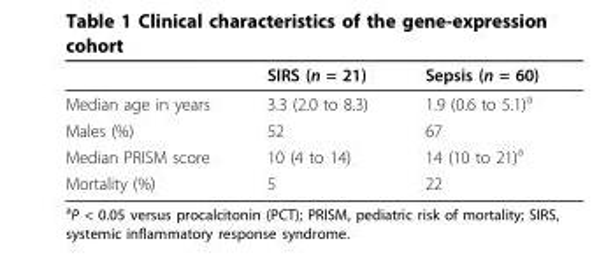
<table><thead><tr><td></td><td>SIRS (n = 21)</td><td>Sepsis (n = 60)</td></tr></thead><tbody><tr><td>Median age in years</td><td>3.3 (2.0 to 8.3)</td><td>1.9 (0.6 to 5.1)<sup>a</sup></td></tr><tr><td>Males (%)</td><td>52</td><td>67</td></tr><tr><td>Median PRISM score</td><td>10 (4 to 14)</td><td>14 (10 to 21)<sup>a</sup></td></tr><tr><td>Mortality (%)</td><td>5</td><td>22</td></tr></tbody></table>